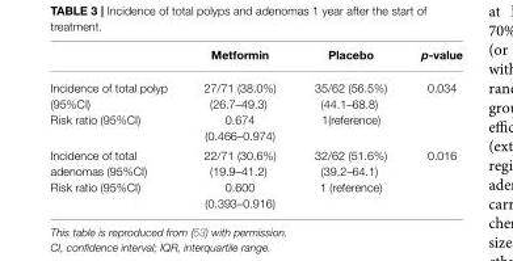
<table><thead><tr><td></td><td>Metformin</td><td>Placebo</td><td>p-value</td></tr></thead><tbody><tr><td>Incidence of total polyp (95%CI) Risk ratio (95%CI)</td><td>27/71 (38.0%) (26.7–49.3) 0.674 (0.466–0.974)</td><td>35/62 (56.5%) (44.1–68.8) 1(reference)</td><td>0.034</td></tr><tr><td>Incidence of total adenomas (95%CI) Risk ratio (95%CI)</td><td>22/71 (30.6%) (19.9–41.2) 0.600 (0.393–0.916)</td><td>32/62 (51.6%) (39.2–64.1) 1 (reference)</td><td>0.016</td></tr></tbody></table>